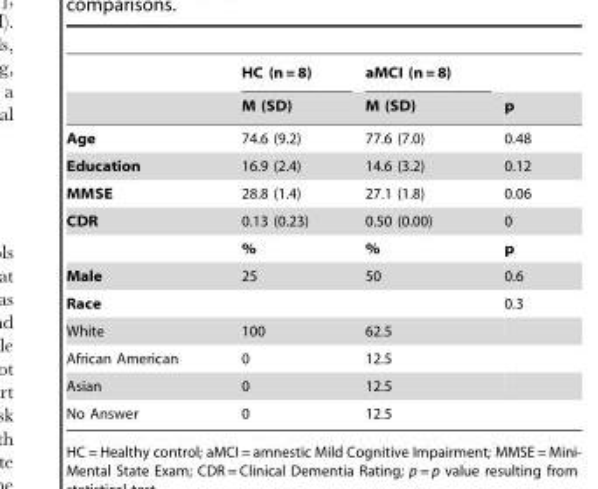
<table><thead><tr><td rowspan="2"></td><td rowspan="2">HC (n = 8) M (SD)</td><td rowspan="2">aMCI (n = 8) M (SD)</td><td rowspan="2">p</td></tr><tr></tr></thead><tbody><tr><td>Age</td><td>74.6 (9.2)</td><td>77.6 (7.0)</td><td>0.48</td></tr><tr><td>Education</td><td>16.9 (2.4)</td><td>14.6 (3.2)</td><td>0.12</td></tr><tr><td>MMSE</td><td>28.8 (1.4)</td><td>27.1 (1.8)</td><td>0.06</td></tr><tr><td rowspan="2">CDR</td><td>0.13 (0.23)</td><td>0.50 (0.00)</td><td>0</td></tr><tr><td>%</td><td>%</td><td>p</td></tr><tr><td>Male</td><td>25</td><td>50</td><td>0.6</td></tr><tr><td>Race</td><td></td><td></td><td>0.3</td></tr><tr><td>White</td><td>100</td><td>62.5</td><td></td></tr><tr><td>African American</td><td>0</td><td>12.5</td><td></td></tr><tr><td>Asian</td><td>0</td><td>12.5</td><td></td></tr><tr><td>No Answer</td><td>0</td><td>12.5</td><td></td></tr></tbody></table>